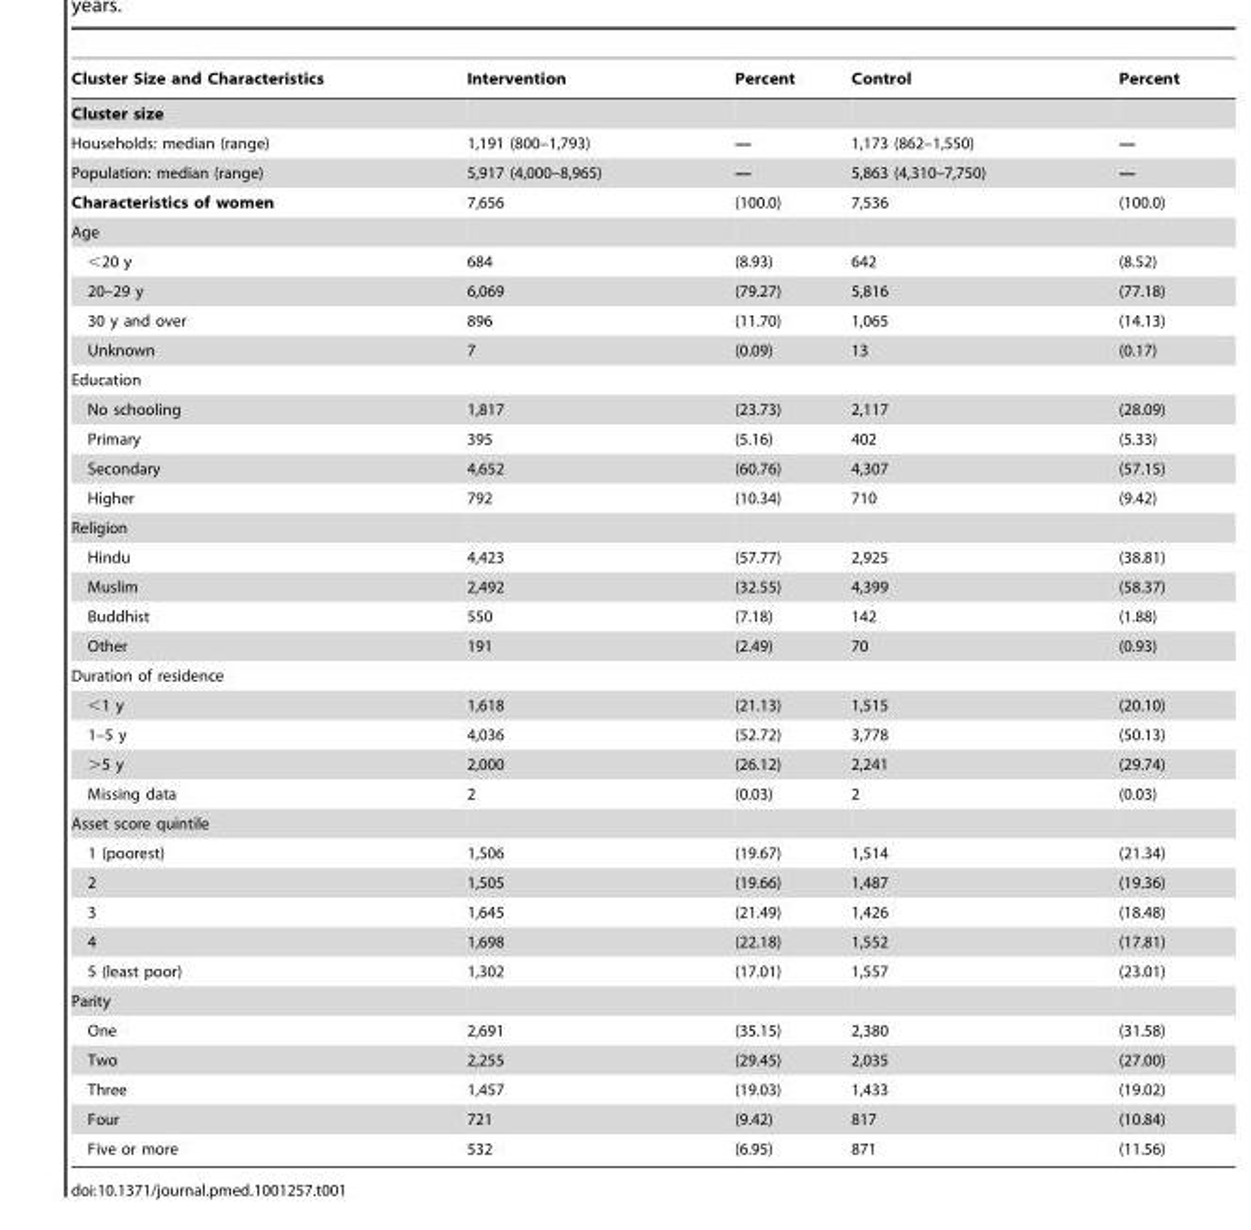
<table><thead><tr><td>Cluster Size and Characteristics</td><td>Intervention</td><td>Percent</td><td>Control</td><td>Percent</td></tr></thead><tbody><tr><td colspan="5">Cluster size</td></tr><tr><td>Households: median (range)</td><td>1,191 (800–1,793)</td><td>—</td><td>1,173 (862–1,550)</td><td>—</td></tr><tr><td>Population: median (range)</td><td>5,917 (4,000–8,965)</td><td>—</td><td>5,863 (4,310–7,750)</td><td>—</td></tr><tr><td>Characteristics of women</td><td>7,656</td><td>(100.0)</td><td>7,536</td><td>(100.0)</td></tr><tr><td colspan="5">Age</td></tr><tr><td>&lt;20 y</td><td>684</td><td>(8.93)</td><td>642</td><td>(8.52)</td></tr><tr><td>20–29 y</td><td>6,069</td><td>(79.27)</td><td>5,816</td><td>(77.18)</td></tr><tr><td>30 y and over</td><td>896</td><td>(11.70)</td><td>1,065</td><td>(14.13)</td></tr><tr><td>Unknown</td><td>7</td><td>(0.09)</td><td>13</td><td>(0.17)</td></tr><tr><td colspan="5">Education</td></tr><tr><td>No schooling</td><td>1,817</td><td>(23.73)</td><td>2,117</td><td>(28.09)</td></tr><tr><td>Primary</td><td>395</td><td>(5.16)</td><td>402</td><td>(5.33)</td></tr><tr><td>Secondary</td><td>4,652</td><td>(60.76)</td><td>4,307</td><td>(57.15)</td></tr><tr><td>Higher</td><td>792</td><td>(10.34)</td><td>710</td><td>(9.42)</td></tr><tr><td colspan="5">Religion</td></tr><tr><td>Hindu</td><td>4,423</td><td>(57.77)</td><td>2,925</td><td>(38.81)</td></tr><tr><td>Muslim</td><td>2,492</td><td>(32.55)</td><td>4,399</td><td>(58.37)</td></tr><tr><td>Buddhist</td><td>550</td><td>(7.18)</td><td>142</td><td>(1.88)</td></tr><tr><td>Other</td><td>191</td><td>(2.49)</td><td>70</td><td>(0.93)</td></tr><tr><td colspan="5">Duration of residence</td></tr><tr><td>&lt;1 y</td><td>1,618</td><td>(21.13)</td><td>1,515</td><td>(20.10)</td></tr><tr><td>1–5 y</td><td>4,036</td><td>(52.72)</td><td>3,778</td><td>(50.13)</td></tr><tr><td>&gt;5 y</td><td>2,000</td><td>(26.12)</td><td>2,241</td><td>(29.74)</td></tr><tr><td>Missing data</td><td>2</td><td>(0.03)</td><td>2</td><td>(0.03)</td></tr><tr><td colspan="5">Asset score quintile</td></tr><tr><td>1 (poorest)</td><td>1,506</td><td>(19.67)</td><td>1,514</td><td>(21.34)</td></tr><tr><td>2</td><td>1,505</td><td>(19.66)</td><td>1,487</td><td>(19.36)</td></tr><tr><td>3</td><td>1,645</td><td>(21.49)</td><td>1,426</td><td>(18.48)</td></tr><tr><td>4</td><td>1,698</td><td>(22.18)</td><td>1,552</td><td>(17.81)</td></tr><tr><td>5 (least poor)</td><td>1,302</td><td>(17.01)</td><td>1,557</td><td>(23.01)</td></tr><tr><td colspan="5">Parity</td></tr><tr><td>One</td><td>2,691</td><td>(35.15)</td><td>2,380</td><td>(31.58)</td></tr><tr><td>Two</td><td>2,255</td><td>(29.45)</td><td>2,035</td><td>(27.00)</td></tr><tr><td>Three</td><td>1,457</td><td>(19.03)</td><td>1,433</td><td>(19.02)</td></tr><tr><td>Four</td><td>721</td><td>(9.42)</td><td>817</td><td>(10.84)</td></tr><tr><td>Five or more</td><td>532</td><td>(6.95)</td><td>871</td><td>(11.56)</td></tr></tbody></table>